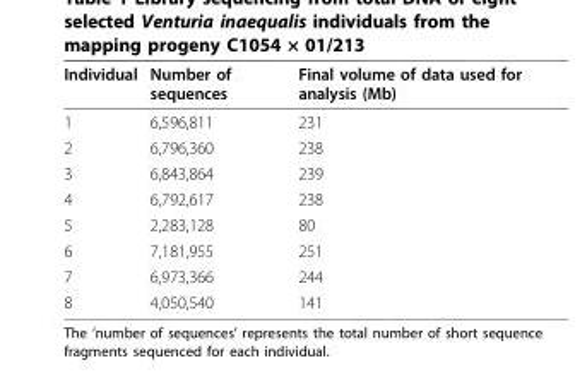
<table><thead><tr><td>Individual</td><td>Number of sequences</td><td>Final volume of data used for analysis (Mb)</td></tr></thead><tbody><tr><td>1</td><td>6,596,811</td><td>231</td></tr><tr><td>2</td><td>6,796,360</td><td>238</td></tr><tr><td>3</td><td>6,843,864</td><td>239</td></tr><tr><td>4</td><td>6,792,617</td><td>238</td></tr><tr><td>5</td><td>2,283,128</td><td>80</td></tr><tr><td>6</td><td>7,181,955</td><td>251</td></tr><tr><td>7</td><td>6,973,366</td><td>244</td></tr><tr><td>8</td><td>4,050,540</td><td>141</td></tr></tbody></table>